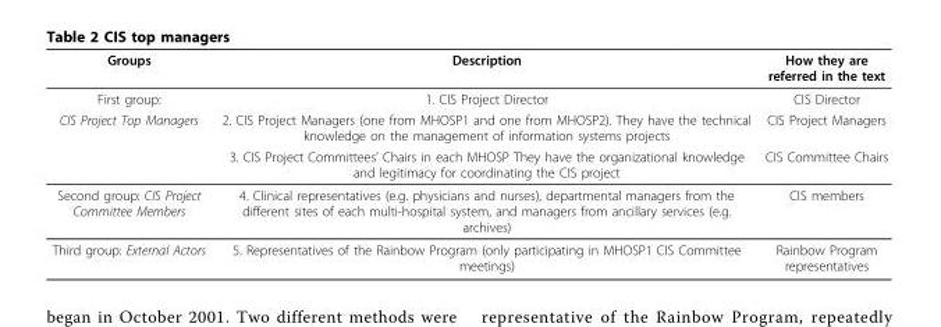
<table><thead><tr><td>Groups</td><td>Description</td><td>How they are referred in the text</td></tr></thead><tbody><tr><td>First group:</td><td>1. CIS Project Director</td><td>CIS Director</td></tr><tr><td rowspan="2">CIS Project Top Managers</td><td>2. CIS Project Managers (one from MHOSP1 and one from MHOSP2). They have the technical knowledge on the management of information systems projects</td><td>CIS Project Managers</td></tr><tr><td>3. CIS Project Committees’ Chairs in each MHOSP They have the organizational knowledge and legitimacy for coordinating the CIS project</td><td>CIS Committee Chairs</td></tr><tr><td>Second group: CIS Project Committee Members</td><td>4. Clinical representatives (e.g. physicians and nurses), departmental managers from the different sites of each multi-hospital system, and managers from ancillary services (e.g. archives)</td><td>CIS members</td></tr><tr><td>Third group: External Actors</td><td>5. Representatives of the Rainbow Program (only participating in MHOSP1 CIS Committee meetings)</td><td>Rainbow Program representatives</td></tr></tbody></table>